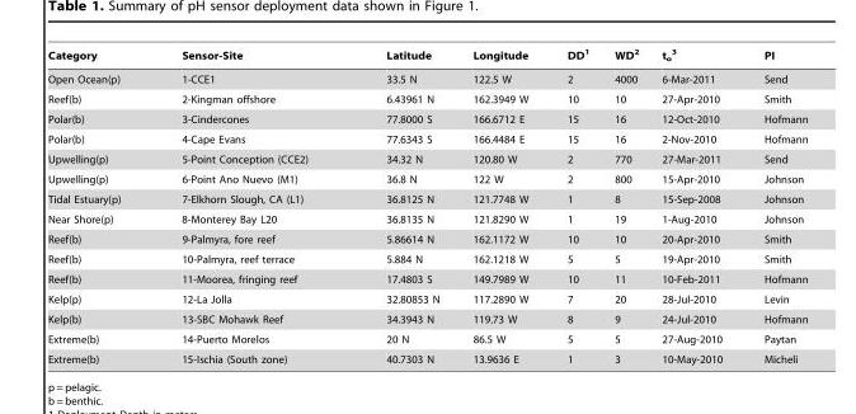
<table><thead><tr><td>Category</td><td>Sensor-Site</td><td>Latitude</td><td>Longitude</td><td>DD<sup>1</sup></td><td>WD<sup>2</sup></td><td>t<sub>o</sub> <sup>3</sup></td><td>PI</td></tr></thead><tbody><tr><td>Open Ocean(p)</td><td>1-CCE1</td><td>33.5 N</td><td>122.5 W</td><td>2</td><td>4000</td><td>6-Mar-2011</td><td>Send</td></tr><tr><td>Reef(b)</td><td>2-Kingman offshore</td><td>6.43961 N</td><td>162.3949 W</td><td>10</td><td>10</td><td>27-Apr-2010</td><td>Smith</td></tr><tr><td>Polar(b)</td><td>3-Cindercones</td><td>77.8000 S</td><td>166.6712 E</td><td>15</td><td>16</td><td>12-Oct-2010</td><td>Hofmann</td></tr><tr><td>Polar(b)</td><td>4-Cape Evans</td><td>77.6343 S</td><td>166.4484 E</td><td>15</td><td>16</td><td>2-Nov-2010</td><td>Hofmann</td></tr><tr><td>Upwelling(p)</td><td>5-Point Conception (CCE2)</td><td>34.32 N</td><td>120.80 W</td><td>2</td><td>770</td><td>27-Mar-2011</td><td>Send</td></tr><tr><td>Upwelling(p)</td><td>6-Point Ano Nuevo (M1)</td><td>36.8 N</td><td>122 W</td><td>2</td><td>800</td><td>15-Apr-2010</td><td>Johnson</td></tr><tr><td>Tidal Estuary(p)</td><td>7-Elkhorn Slough, CA (L1)</td><td>36.8125 N</td><td>121.7748 W</td><td>1</td><td>8</td><td>15-Sep-2008</td><td>Johnson</td></tr><tr><td>Near Shore(p)</td><td>8-Monterey Bay L20</td><td>36.8135 N</td><td>121.8290 W</td><td>1</td><td>19</td><td>1-Aug-2010</td><td>Johnson</td></tr><tr><td>Reef(b)</td><td>9-Palmyra, fore reef</td><td>5.86614 N</td><td>162.1172 W</td><td>10</td><td>10</td><td>20-Apr-2010</td><td>Smith</td></tr><tr><td>Reef(b)</td><td>10-Palmyra, reef terrace</td><td>5.884 N</td><td>162.1218 W</td><td>5</td><td>5</td><td>19-Apr-2010</td><td>Smith</td></tr><tr><td>Reef(b)</td><td>11-Moorea, fringing reef</td><td>17.4803 S</td><td>149.7989 W</td><td>10</td><td>11</td><td>10-Feb-2011</td><td>Hofmann</td></tr><tr><td>Kelp(p)</td><td>12-La Jolla</td><td>32.80853 N</td><td>117.2890 W</td><td>7</td><td>20</td><td>28-Jul-2010</td><td>Levin</td></tr><tr><td>Kelp(b)</td><td>13-SBC Mohawk Reef</td><td>34.3943 N</td><td>119.73 W</td><td>8</td><td>9</td><td>24-Jul-2010</td><td>Hofmann</td></tr><tr><td>Extreme(b)</td><td>14-Puerto Morelos</td><td>20 N</td><td>86.5 W</td><td>5</td><td>5</td><td>27-Aug-2010</td><td>Paytan</td></tr><tr><td>Extreme(b)</td><td>15-Ischia (South zone)</td><td>40.7303 N</td><td>13.9636 E</td><td>1</td><td>3</td><td>10-May-2010</td><td>Micheli</td></tr></tbody></table>